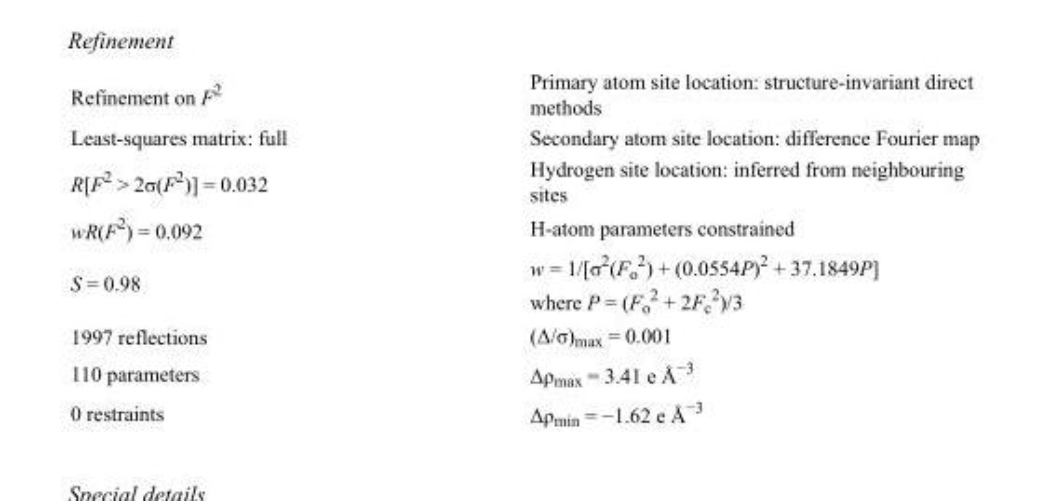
<table><tbody><tr><td>Refinement on F<sup>2</sup></td><td>Primary atom site location: structure-invariant direct methods</td></tr><tr><td>Least-squares matrix: full</td><td>Secondary atom site location: difference Fourier map</td></tr><tr><td>R[F<sup>2</sup> &gt; 2σ(F<sup>2</sup>)] = 0.032</td><td>Hydrogen site location: inferred from neighbouring sites</td></tr><tr><td>wR(F<sup>2</sup>) = 0.092</td><td>H-atom parameters constrained</td></tr><tr><td>S = 0.98</td><td>w = 1/[σ<sup>2</sup>(F<sub>o</sub> <sup>2</sup>) + (0.0554P)<sup>2</sup> + 37.1849P] where P = (F<sub>o</sub> <sup>2</sup> + 2F<sub>c</sub> <sup>2</sup>)/3</td></tr><tr><td>1997 reflections</td><td>(Δ/σ)<sub>max</sub> = 0.001</td></tr><tr><td>110 parameters</td><td>Δρ<sub>max</sub> = 3.41 e Å<sup>−3</sup></td></tr><tr><td>0 restraints</td><td>Δρ<sub>min</sub> = −1.62 e Å<sup>−3</sup></td></tr></tbody></table>